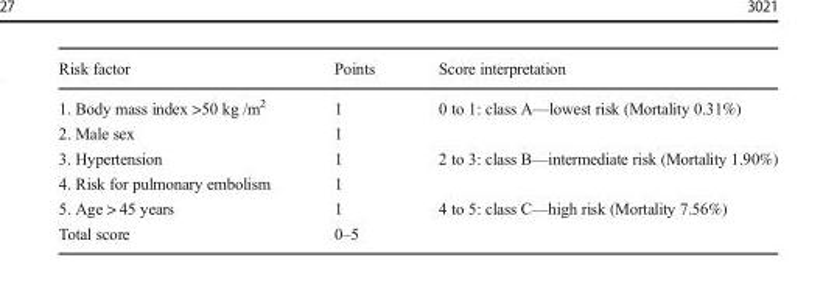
<table><thead><tr><td>Risk factor</td><td>Points</td><td>Score interpretation</td></tr></thead><tbody><tr><td>1. Body mass index &gt;50 kg /m<sup>2</sup></td><td>1</td><td>0 to 1: class A—lowest risk (Mortality 0.31%)</td></tr><tr><td>2. Male sex</td><td>1</td><td></td></tr><tr><td>3. Hypertension</td><td>1</td><td>2 to 3: class B—intermediate risk (Mortality 1.90%)</td></tr><tr><td>4. Risk for pulmonary embolism</td><td>1</td><td></td></tr><tr><td>5. Age &gt; 45 years</td><td>1</td><td>4 to 5: class C—high risk (Mortality 7.56%)</td></tr><tr><td>Total score</td><td>0–5</td><td></td></tr></tbody></table>